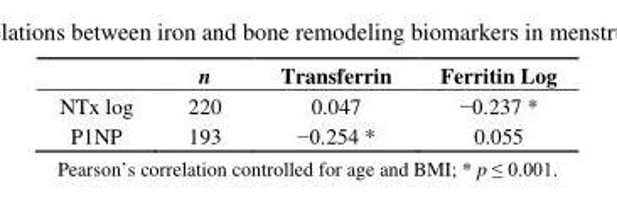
<table><thead><tr><td></td><td>n</td><td>Transferrin</td><td>Ferritin Log</td></tr></thead><tbody><tr><td>NTx log</td><td>220</td><td>0.047</td><td>−0.237 *</td></tr><tr><td>P1NP</td><td>193</td><td>−0.254 *</td><td>0.055</td></tr></tbody></table>